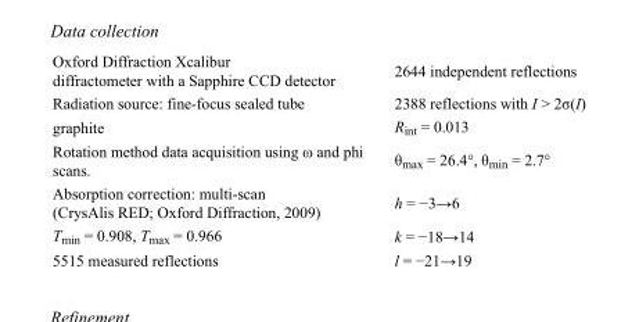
<table><tbody><tr><td>Oxford Diffraction Xcalibur diffractometer with a Sapphire CCD detector</td><td>2644 independent reflections</td></tr><tr><td>Radiation source: fine-focus sealed tube</td><td>2388 reflections with I &gt; 2σ(I)</td></tr><tr><td>graphite</td><td>R<sub>int</sub> = 0.013</td></tr><tr><td>Rotation method data acquisition using ω and phi scans.</td><td>θ<sub>max</sub> = 26.4°, θ<sub>min</sub> = 2.7°</td></tr><tr><td>Absorption correction: multi-scan (CrysAlis RED; Oxford Diffraction, 2009)</td><td>h = −3→6</td></tr><tr><td>T<sub>min</sub> = 0.908, T<sub>max</sub> = 0.966</td><td>k = −18→14</td></tr><tr><td>5515 measured reflections</td><td>l = −21→19</td></tr></tbody></table>